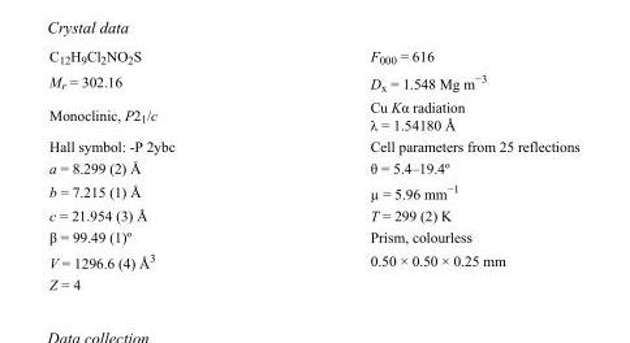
<table><tbody><tr><td>C<sub>12</sub>H<sub>9</sub>Cl<sub>2</sub>NO<sub>2</sub>S</td><td>F000 = 616</td></tr><tr><td>M<sub>r</sub> = 302.16</td><td>D<sub>x</sub> = 1.548 Mg m<sup>−3</sup></td></tr><tr><td>Monoclinic, P2<sub>1</sub>/c</td><td>Cu Kα radiation λ = 1.54180 Å</td></tr><tr><td>Hall symbol: -P 2ybc</td><td>Cell parameters from 25 reflections</td></tr><tr><td>a = 8.299 (2) Å</td><td>θ = 5.4–19.4º</td></tr><tr><td>b = 7.215 (1) Å</td><td>µ = 5.96 mm<sup>−1</sup></td></tr><tr><td>c = 21.954 (3) Å</td><td>T = 299 (2) K</td></tr><tr><td>β = 99.49 (1)º</td><td>Prism, colourless</td></tr><tr><td>V = 1296.6 (4) Å<sup>3</sup></td><td>0.50 × 0.50 × 0.25 mm</td></tr><tr><td>Z = 4</td><td></td></tr></tbody></table>